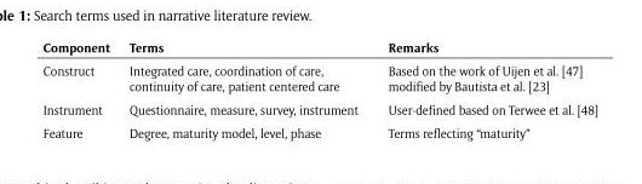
<table><thead><tr><td>Component</td><td>Terms</td><td>Remarks</td></tr></thead><tbody><tr><td>Construct</td><td>Integrated care, coordination of care, continuity of care, patient centered care</td><td>Based on the work of Uijen et al. [47] modified by Bautista et al. [23]</td></tr><tr><td>Instrument</td><td>Questionnaire, measure, survey, instrument</td><td>User-defined based on Terwee et al. [48]</td></tr><tr><td>Feature</td><td>Degree, maturity model, level, phase</td><td>Terms reflecting “maturity”</td></tr></tbody></table>